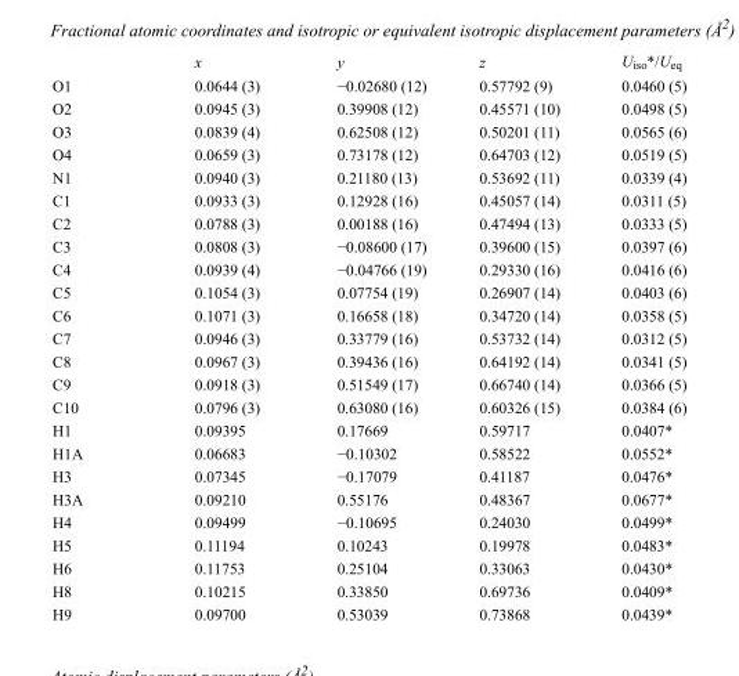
<table><thead><tr><td></td><td>x</td><td>y</td><td>z</td><td>U<sub>iso</sub>*/U<sub>eq</sub></td></tr></thead><tbody><tr><td>O1</td><td>0.0644 (3)</td><td>−0.02680 (12)</td><td>0.57792 (9)</td><td>0.0460 (5)</td></tr><tr><td>O2</td><td>0.0945 (3)</td><td>0.39908 (12)</td><td>0.45571 (10)</td><td>0.0498 (5)</td></tr><tr><td>O3</td><td>0.0839 (4)</td><td>0.62508 (12)</td><td>0.50201 (11)</td><td>0.0565 (6)</td></tr><tr><td>O4</td><td>0.0659 (3)</td><td>0.73178 (12)</td><td>0.64703 (12)</td><td>0.0519 (5)</td></tr><tr><td>N1</td><td>0.0940 (3)</td><td>0.21180 (13)</td><td>0.53692 (11)</td><td>0.0339 (4)</td></tr><tr><td>C1</td><td>0.0933 (3)</td><td>0.12928 (16)</td><td>0.45057 (14)</td><td>0.0311 (5)</td></tr><tr><td>C2</td><td>0.0788 (3)</td><td>0.00188 (16)</td><td>0.47494 (13)</td><td>0.0333 (5)</td></tr><tr><td>C3</td><td>0.0808 (3)</td><td>−0.08600 (17)</td><td>0.39600 (15)</td><td>0.0397 (6)</td></tr><tr><td>C4</td><td>0.0939 (4)</td><td>−0.04766 (19)</td><td>0.29330 (16)</td><td>0.0416 (6)</td></tr><tr><td>C5</td><td>0.1054 (3)</td><td>0.07754 (19)</td><td>0.26907 (14)</td><td>0.0403 (6)</td></tr><tr><td>C6</td><td>0.1071 (3)</td><td>0.16658 (18)</td><td>0.34720 (14)</td><td>0.0358 (5)</td></tr><tr><td>C7</td><td>0.0946 (3)</td><td>0.33779 (16)</td><td>0.53732 (14)</td><td>0.0312 (5)</td></tr><tr><td>C8</td><td>0.0967 (3)</td><td>0.39436 (16)</td><td>0.64192 (14)</td><td>0.0341 (5)</td></tr><tr><td>C9</td><td>0.0918 (3)</td><td>0.51549 (17)</td><td>0.66740 (14)</td><td>0.0366 (5)</td></tr><tr><td>C10</td><td>0.0796 (3)</td><td>0.63080 (16)</td><td>0.60326 (15)</td><td>0.0384 (6)</td></tr><tr><td>H1</td><td>0.09395</td><td>0.17669</td><td>0.59717</td><td>0.0407*</td></tr><tr><td>H1A</td><td>0.06683</td><td>−0.10302</td><td>0.58522</td><td>0.0552*</td></tr><tr><td>H3</td><td>0.07345</td><td>−0.17079</td><td>0.41187</td><td>0.0476*</td></tr><tr><td>H3A</td><td>0.09210</td><td>0.55176</td><td>0.48367</td><td>0.0677*</td></tr><tr><td>H4</td><td>0.09499</td><td>−0.10695</td><td>0.24030</td><td>0.0499*</td></tr><tr><td>H5</td><td>0.11194</td><td>0.10243</td><td>0.19978</td><td>0.0483*</td></tr><tr><td>H6</td><td>0.11753</td><td>0.25104</td><td>0.33063</td><td>0.0430*</td></tr><tr><td>H8</td><td>0.10215</td><td>0.33850</td><td>0.69736</td><td>0.0409*</td></tr><tr><td>H9</td><td>0.09700</td><td>0.53039</td><td>0.73868</td><td>0.0439*</td></tr></tbody></table>